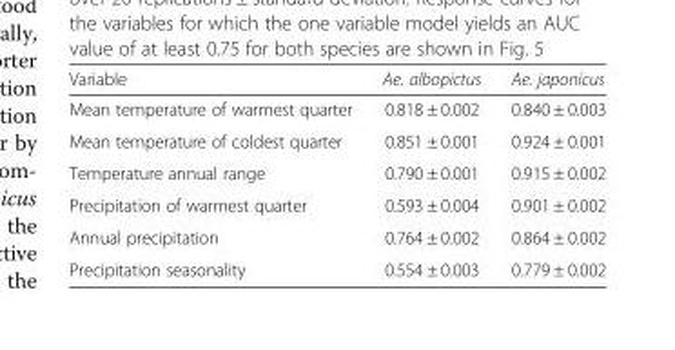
<table><thead><tr><td>Variable</td><td>Ae. albopictus</td><td>Ae. japonicus</td></tr></thead><tbody><tr><td>Mean temperature of warmest quarter</td><td>0.818 ± 0.002</td><td>0.840 ± 0.003</td></tr><tr><td>Mean temperature of coldest quarter</td><td>0.851 ± 0.001</td><td>0.924 ± 0.001</td></tr><tr><td>Temperature annual range</td><td>0.790 ± 0.001</td><td>0.915 ± 0.002</td></tr><tr><td>Precipitation of warmest quarter</td><td>0.593 ± 0.004</td><td>0.901 ± 0.002</td></tr><tr><td>Annual precipitation</td><td>0.764 ± 0.002</td><td>0.864 ± 0.002</td></tr><tr><td>Precipitation seasonality</td><td>0.554 ± 0.003</td><td>0.779 ± 0.002</td></tr></tbody></table>